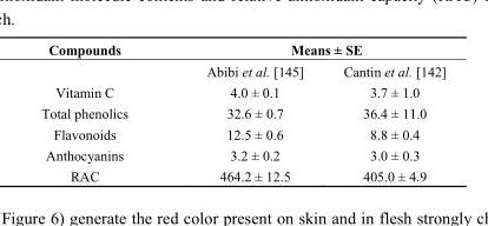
<table><thead><tr><td rowspan="2">Compounds</td><td colspan="2">Means ± SE</td></tr><tr><td>Abibi et al. [145]</td><td>Cantin et al. [142]</td></tr></thead><tbody><tr><td>Vitamin C</td><td>4.0 ± 0.1</td><td>3.7 ± 1.0</td></tr><tr><td>Total phenolics</td><td>32.6 ± 0.7</td><td>36.4 ± 11.0</td></tr><tr><td>Flavonoids</td><td>12.5 ± 0.6</td><td>8.8 ± 0.4</td></tr><tr><td>Anthocyanins</td><td>3.2 ± 0.2</td><td>3.0 ± 0.3</td></tr><tr><td>RAC</td><td>464.2 ± 12.5</td><td>405.0 ± 4.9</td></tr></tbody></table>